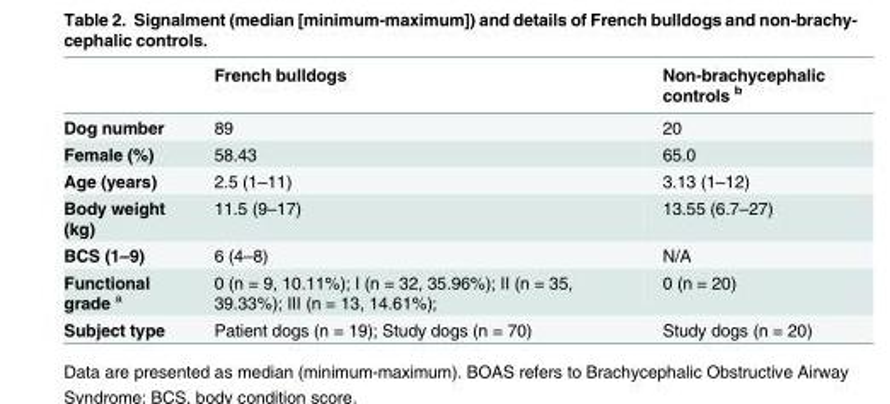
<table><thead><tr><td></td><td>French bulldogs</td><td>Non-brachycephalic controls <sup>b</sup></td></tr></thead><tbody><tr><td>Dog number</td><td>89</td><td>20</td></tr><tr><td>Female (%)</td><td>58.43</td><td>65.0</td></tr><tr><td>Age (years)</td><td>2.5 (1–11)</td><td>3.13 (1–12)</td></tr><tr><td>Body weight (kg)</td><td>11.5 (9–17)</td><td>13.55 (6.7–27)</td></tr><tr><td>BCS (1–9)</td><td>6 (4–8)</td><td>N/A</td></tr><tr><td>Functional grade <sup>a</sup></td><td>0 (n = 9, 10.11%); I (n = 32, 35.96%); II (n = 35, 39.33%); III (n = 13, 14.61%);</td><td>0 (n = 20)</td></tr><tr><td>Subject type</td><td>Patient dogs (n = 19); Study dogs (n = 70)</td><td>Study dogs (n = 20)</td></tr></tbody></table>